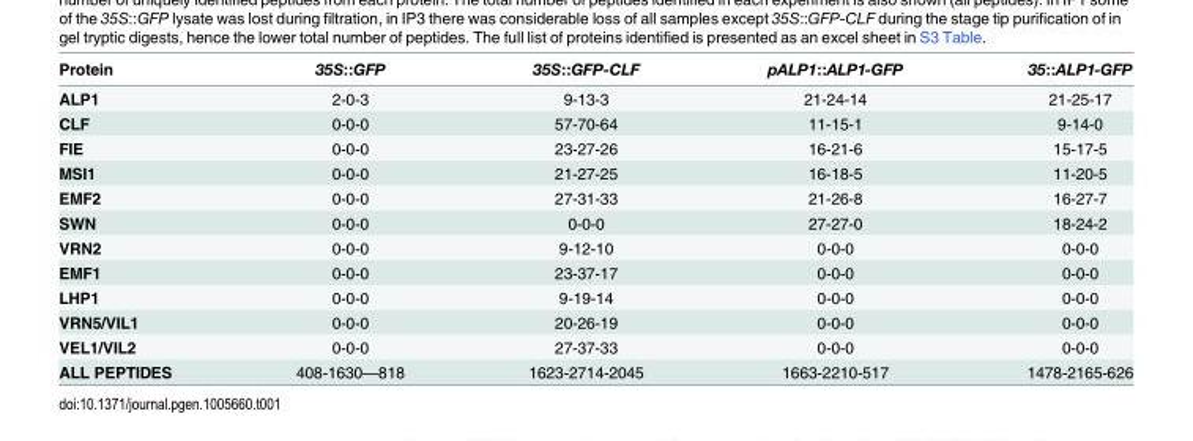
<table><thead><tr><td>Protein</td><td>35S::GFP</td><td>35S::GFP-CLF</td><td>pALP1::ALP1-GFP</td><td>35::ALP1-GFP</td></tr></thead><tbody><tr><td>ALP1</td><td>2-0-3</td><td>9-13-3</td><td>21-24-14</td><td>21-25-17</td></tr><tr><td>CLF</td><td>0-0-0</td><td>57-70-64</td><td>11-15-1</td><td>9-14-0</td></tr><tr><td>FIE</td><td>0-0-0</td><td>23-27-26</td><td>16-21-6</td><td>15-17-5</td></tr><tr><td>MSI1</td><td>0-0-0</td><td>21-27-25</td><td>16-18-5</td><td>11-20-5</td></tr><tr><td>EMF2</td><td>0-0-0</td><td>27-31-33</td><td>21-26-8</td><td>16-27-7</td></tr><tr><td>SWN</td><td>0-0-0</td><td>0-0-0</td><td>27-27-0</td><td>18-24-2</td></tr><tr><td>VRN2</td><td>0-0-0</td><td>9-12-10</td><td>0-0-0</td><td>0-0-0</td></tr><tr><td>EMF1</td><td>0-0-0</td><td>23-37-17</td><td>0-0-0</td><td>0-0-0</td></tr><tr><td>LHP1</td><td>0-0-0</td><td>9-19-14</td><td>0-0-0</td><td>0-0-0</td></tr><tr><td>VRN5/VIL1</td><td>0-0-0</td><td>20-26-19</td><td>0-0-0</td><td>0-0-0</td></tr><tr><td>VEL1/VIL2</td><td>0-0-0</td><td>27-37-33</td><td>0-0-0</td><td>0-0-0</td></tr><tr><td>ALL PEPTIDES</td><td>408-1630—818</td><td>1623-2714-2045</td><td>1663-2210-517</td><td>1478-2165-626</td></tr></tbody></table>